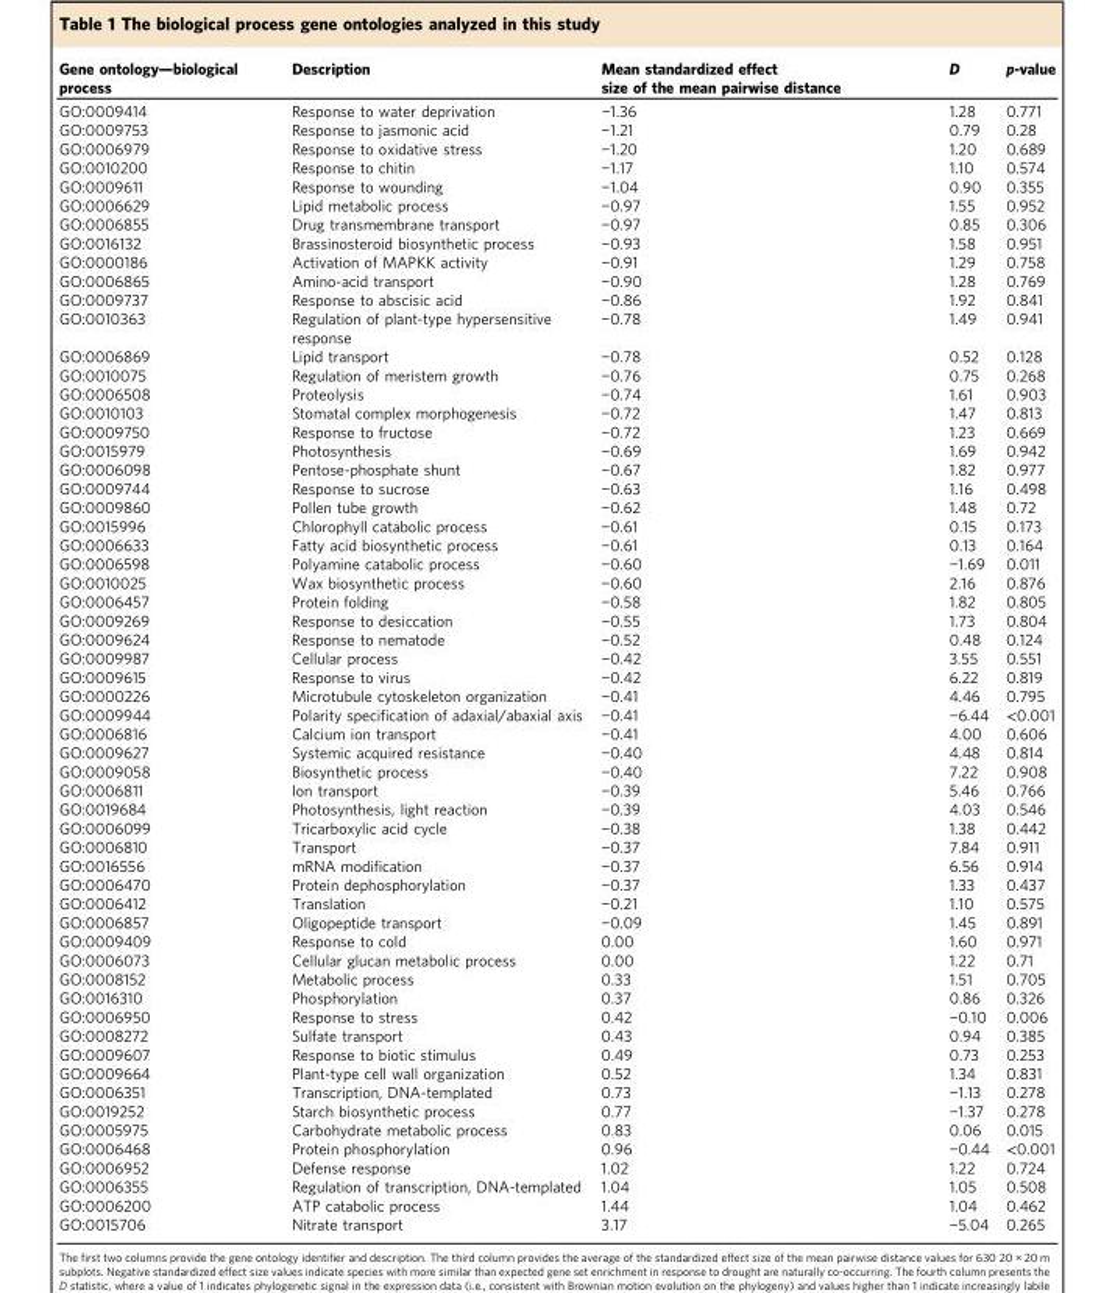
<table><thead><tr><td>Gene ontology—biological process</td><td>Description</td><td>Mean standardized effect size of the mean pairwise distance</td><td>D</td><td>p-value</td></tr></thead><tbody><tr><td>GO:0009414</td><td>Response to water deprivation</td><td>−1.36</td><td>1.28</td><td>0.771</td></tr><tr><td>GO:0009753</td><td>Response to jasmonic acid</td><td>−1.21</td><td>0.79</td><td>0.28</td></tr><tr><td>GO:0006979</td><td>Response to oxidative stress</td><td>−1.20</td><td>1.20</td><td>0.689</td></tr><tr><td>GO:0010200</td><td>Response to chitin</td><td>−1.17</td><td>1.10</td><td>0.574</td></tr><tr><td>GO:0009611</td><td>Response to wounding</td><td>−1.04</td><td>0.90</td><td>0.355</td></tr><tr><td>GO:0006629</td><td>Lipid metabolic process</td><td>−0.97</td><td>1.55</td><td>0.952</td></tr><tr><td>GO:0006855</td><td>Drug transmembrane transport</td><td>−0.97</td><td>0.85</td><td>0.306</td></tr><tr><td>GO:0016132</td><td>Brassinosteroid biosynthetic process</td><td>−0.93</td><td>1.58</td><td>0.951</td></tr><tr><td>GO:0000186</td><td>Activation of MAPKK activity</td><td>−0.91</td><td>1.29</td><td>0.758</td></tr><tr><td>GO:0006865</td><td>Amino-acid transport</td><td>−0.90</td><td>1.28</td><td>0.769</td></tr><tr><td>GO:0009737</td><td>Response to abscisic acid</td><td>−0.86</td><td>1.92</td><td>0.841</td></tr><tr><td>GO:0010363</td><td>Regulation of plant-type hypersensitive response</td><td>−0.78</td><td>1.49</td><td>0.941</td></tr><tr><td>GO:0006869</td><td>Lipid transport</td><td>−0.78</td><td>0.52</td><td>0.128</td></tr><tr><td>GO:0010075</td><td>Regulation of meristem growth</td><td>−0.76</td><td>0.75</td><td>0.268</td></tr><tr><td>GO:0006508</td><td>Proteolysis</td><td>−0.74</td><td>1.61</td><td>0.903</td></tr><tr><td>GO:0010103</td><td>Stomatal complex morphogenesis</td><td>−0.72</td><td>1.47</td><td>0.813</td></tr><tr><td>GO:0009750</td><td>Response to fructose</td><td>−0.72</td><td>1.23</td><td>0.669</td></tr><tr><td>GO:0015979</td><td>Photosynthesis</td><td>−0.69</td><td>1.69</td><td>0.942</td></tr><tr><td>GO:0006098</td><td>Pentose-phosphate shunt</td><td>−0.67</td><td>1.82</td><td>0.977</td></tr><tr><td>GO:0009744</td><td>Response to sucrose</td><td>−0.63</td><td>1.16</td><td>0.498</td></tr><tr><td>GO:0009860</td><td>Pollen tube growth</td><td>−0.62</td><td>1.48</td><td>0.72</td></tr><tr><td>GO:0015996</td><td>Chlorophyll catabolic process</td><td>−0.61</td><td>0.15</td><td>0.173</td></tr><tr><td>GO:0006633</td><td>Fatty acid biosynthetic process</td><td>−0.61</td><td>0.13</td><td>0.164</td></tr><tr><td>GO:0006598</td><td>Polyamine catabolic process</td><td>−0.60</td><td>−1.69</td><td>0.011</td></tr><tr><td>GO:0010025</td><td>Wax biosynthetic process</td><td>−0.60</td><td>2.16</td><td>0.876</td></tr><tr><td>GO:0006457</td><td>Protein folding</td><td>−0.58</td><td>1.82</td><td>0.805</td></tr><tr><td>GO:0009269</td><td>Response to desiccation</td><td>−0.55</td><td>1.73</td><td>0.804</td></tr><tr><td>GO:0009624</td><td>Response to nematode</td><td>−0.52</td><td>0.48</td><td>0.124</td></tr><tr><td>GO:0009987</td><td>Cellular process</td><td>−0.42</td><td>3.55</td><td>0.551</td></tr><tr><td>GO:0009615</td><td>Response to virus</td><td>−0.42</td><td>6.22</td><td>0.819</td></tr><tr><td>GO:0000226</td><td>Microtubule cytoskeleton organization</td><td>−0.41</td><td>4.46</td><td>0.795</td></tr><tr><td>GO:0009944</td><td>Polarity specification of adaxial/abaxial axis</td><td>−0.41</td><td>−6.44</td><td>&lt;0.001</td></tr><tr><td>GO:0006816</td><td>Calcium ion transport</td><td>−0.41</td><td>4.00</td><td>0.606</td></tr><tr><td>GO:0009627</td><td>Systemic acquired resistance</td><td>−0.40</td><td>4.48</td><td>0.814</td></tr><tr><td>GO:0009058</td><td>Biosynthetic process</td><td>−0.40</td><td>7.22</td><td>0.908</td></tr><tr><td>GO:0006811</td><td>Ion transport</td><td>−0.39</td><td>5.46</td><td>0.766</td></tr><tr><td>GO:0019684</td><td>Photosynthesis, light reaction</td><td>−0.39</td><td>4.03</td><td>0.546</td></tr><tr><td>GO:0006099</td><td>Tricarboxylic acid cycle</td><td>−0.38</td><td>1.38</td><td>0.442</td></tr><tr><td>GO:0006810</td><td>Transport</td><td>−0.37</td><td>7.84</td><td>0.911</td></tr><tr><td>GO:0016556</td><td>mRNA modification</td><td>−0.37</td><td>6.56</td><td>0.914</td></tr><tr><td>GO:0006470</td><td>Protein dephosphorylation</td><td>−0.37</td><td>1.33</td><td>0.437</td></tr><tr><td>GO:0006412</td><td>Translation</td><td>−0.21</td><td>1.10</td><td>0.575</td></tr><tr><td>GO:0006857</td><td>Oligopeptide transport</td><td>−0.09</td><td>1.45</td><td>0.891</td></tr><tr><td>GO:0009409</td><td>Response to cold</td><td>0.00</td><td>1.60</td><td>0.971</td></tr><tr><td>GO:0006073</td><td>Cellular glucan metabolic process</td><td>0.00</td><td>1.22</td><td>0.71</td></tr><tr><td>GO:0008152</td><td>Metabolic process</td><td>0.33</td><td>1.51</td><td>0.705</td></tr><tr><td>GO:0016310</td><td>Phosphorylation</td><td>0.37</td><td>0.86</td><td>0.326</td></tr><tr><td>GO:0006950</td><td>Response to stress</td><td>0.42</td><td>−0.10</td><td>0.006</td></tr><tr><td>GO:0008272</td><td>Sulfate transport</td><td>0.43</td><td>0.94</td><td>0.385</td></tr><tr><td>GO:0009607</td><td>Response to biotic stimulus</td><td>0.49</td><td>0.73</td><td>0.253</td></tr><tr><td>GO:0009664</td><td>Plant-type cell wall organization</td><td>0.52</td><td>1.34</td><td>0.831</td></tr><tr><td>GO:0006351</td><td>Transcription, DNA-templated</td><td>0.73</td><td>−1.13</td><td>0.278</td></tr><tr><td>GO:0019252</td><td>Starch biosynthetic process</td><td>0.77</td><td>−1.37</td><td>0.278</td></tr><tr><td>GO:0005975</td><td>Carbohydrate metabolic process</td><td>0.83</td><td>0.06</td><td>0.015</td></tr><tr><td>GO:0006468</td><td>Protein phosphorylation</td><td>0.96</td><td>−0.44</td><td>&lt;0.001</td></tr><tr><td>GO:0006952</td><td>Defense response</td><td>1.02</td><td>1.22</td><td>0.724</td></tr><tr><td>GO:0006355</td><td>Regulation of transcription, DNA-templated</td><td>1.04</td><td>1.05</td><td>0.508</td></tr><tr><td>GO:0006200</td><td>ATP catabolic process</td><td>1.44</td><td>1.04</td><td>0.462</td></tr><tr><td>GO:0015706</td><td>Nitrate transport</td><td>3.17</td><td>−5.04</td><td>0.265</td></tr></tbody></table>